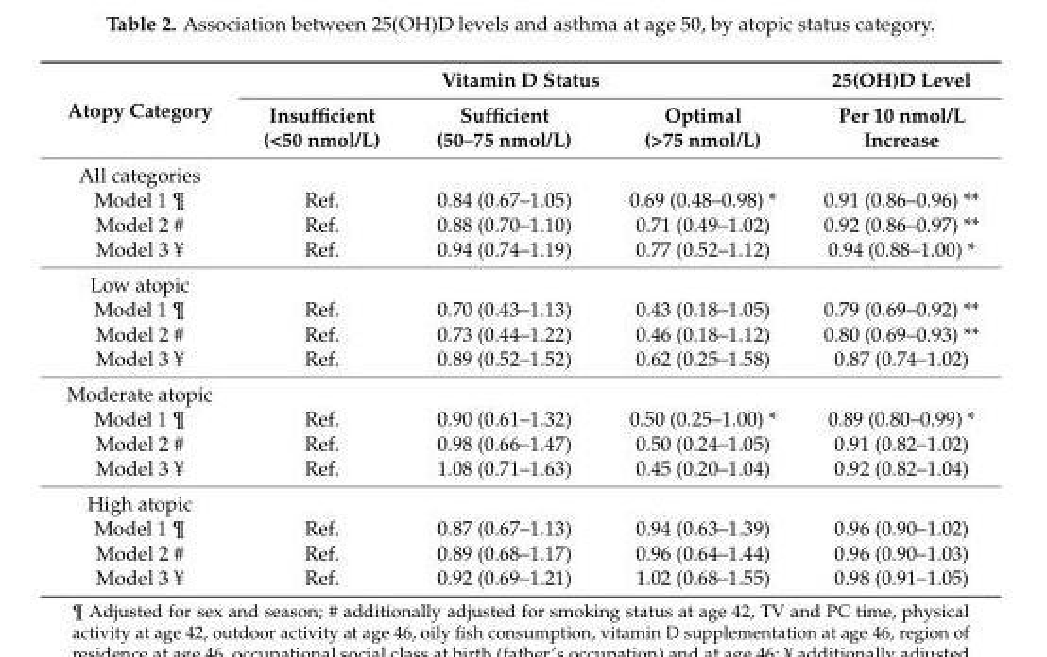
<table><thead><tr><td rowspan="2">Atopy Category</td><td colspan="3">Vitamin D Status</td><td rowspan="2">25(OH)D Level Per 10 nmol/L Increase</td></tr><tr><td>Insufficient (&lt;50 nmol/L)</td><td>Sufficient (50–75 nmol/L)</td><td>Optimal (&gt;75 nmol/L)</td></tr></thead><tbody><tr><td colspan="5">All categories</td></tr><tr><td>Model 1 ¶</td><td>Ref.</td><td>0.84 (0.67–1.05)</td><td>0.69 (0.48–0.98) *</td><td>0.91 (0.86–0.96) **</td></tr><tr><td>Model 2 #</td><td>Ref.</td><td>0.88 (0.70–1.10)</td><td>0.71 (0.49–1.02)</td><td>0.92 (0.86–0.97) **</td></tr><tr><td>Model 3 ¥</td><td>Ref.</td><td>0.94 (0.74–1.19)</td><td>0.77 (0.52–1.12)</td><td>0.94 (0.88–1.00) *</td></tr><tr><td colspan="5">Low atopic</td></tr><tr><td>Model 1 ¶</td><td>Ref.</td><td>0.70 (0.43–1.13)</td><td>0.43 (0.18–1.05)</td><td>0.79 (0.69–0.92) **</td></tr><tr><td>Model 2 #</td><td>Ref.</td><td>0.73 (0.44–1.22)</td><td>0.46 (0.18–1.12)</td><td>0.80 (0.69–0.93) **</td></tr><tr><td>Model 3 ¥</td><td>Ref.</td><td>0.89 (0.52–1.52)</td><td>0.62 (0.25–1.58)</td><td>0.87 (0.74–1.02)</td></tr><tr><td colspan="5">Moderate atopic</td></tr><tr><td>Model 1 ¶</td><td>Ref.</td><td>0.90 (0.61–1.32)</td><td>0.50 (0.25–1.00) *</td><td>0.89 (0.80–0.99) *</td></tr><tr><td>Model 2 #</td><td>Ref.</td><td>0.98 (0.66–1.47)</td><td>0.50 (0.24–1.05)</td><td>0.91 (0.82–1.02)</td></tr><tr><td>Model 3 ¥</td><td>Ref.</td><td>1.08 (0.71–1.63)</td><td>0.45 (0.20–1.04)</td><td>0.92 (0.82–1.04)</td></tr><tr><td colspan="5">High atopic</td></tr><tr><td>Model 1 ¶</td><td>Ref.</td><td>0.87 (0.67–1.13)</td><td>0.94 (0.63–1.39)</td><td>0.96 (0.90–1.02)</td></tr><tr><td>Model 2 #</td><td>Ref.</td><td>0.89 (0.68–1.17)</td><td>0.96 (0.64–1.44)</td><td>0.96 (0.90–1.03)</td></tr><tr><td>Model 3 ¥</td><td>Ref.</td><td>0.92 (0.69–1.21)</td><td>1.02 (0.68–1.55)</td><td>0.98 (0.91–1.05)</td></tr></tbody></table>